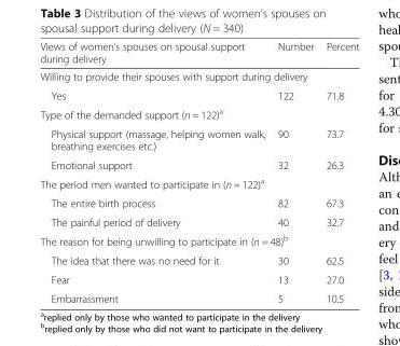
<table><thead><tr><td>Views of women’s spouses on spousal support during delivery</td><td>Number</td><td>Percent</td></tr></thead><tbody><tr><td colspan="3">Willing to provide their spouses with support during delivery</td></tr><tr><td>Yes</td><td>122</td><td>71.8</td></tr><tr><td colspan="3">Type of the demanded support (n = 122)<sup>a</sup></td></tr><tr><td>Physical support (massage, helping women walk, breathing exercises etc.)</td><td>90</td><td>73.7</td></tr><tr><td>Emotional support</td><td>32</td><td>26.3</td></tr><tr><td colspan="3">The period men wanted to participate in (n = 122)<sup>a</sup></td></tr><tr><td>The entire birth process</td><td>82</td><td>67.3</td></tr><tr><td>The painful period of delivery</td><td>40</td><td>32.7</td></tr><tr><td colspan="3">The reason for being unwilling to participate in (n = 48)<sup>b</sup></td></tr><tr><td>The idea that there was no need for it</td><td>30</td><td>62.5</td></tr><tr><td>Fear</td><td>13</td><td>27.0</td></tr><tr><td>Embarrassment</td><td>5</td><td>10.5</td></tr></tbody></table>